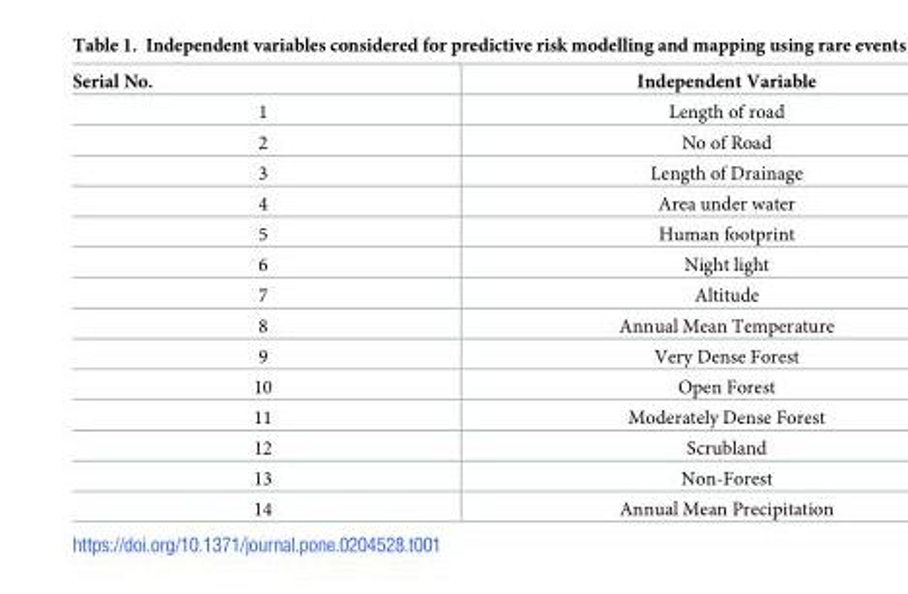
<table><thead><tr><td>Serial No.</td><td>Independent Variable</td></tr></thead><tbody><tr><td>1</td><td>Length of road</td></tr><tr><td>2</td><td>No of Road</td></tr><tr><td>3</td><td>Length of Drainage</td></tr><tr><td>4</td><td>Area under water</td></tr><tr><td>5</td><td>Human footprint</td></tr><tr><td>6</td><td>Night light</td></tr><tr><td>7</td><td>Altitude</td></tr><tr><td>8</td><td>Annual Mean Temperature</td></tr><tr><td>9</td><td>Very Dense Forest</td></tr><tr><td>10</td><td>Open Forest</td></tr><tr><td>11</td><td>Moderately Dense Forest</td></tr><tr><td>12</td><td>Scrubland</td></tr><tr><td>13</td><td>Non-Forest</td></tr><tr><td>14</td><td>Annual Mean Precipitation</td></tr></tbody></table>